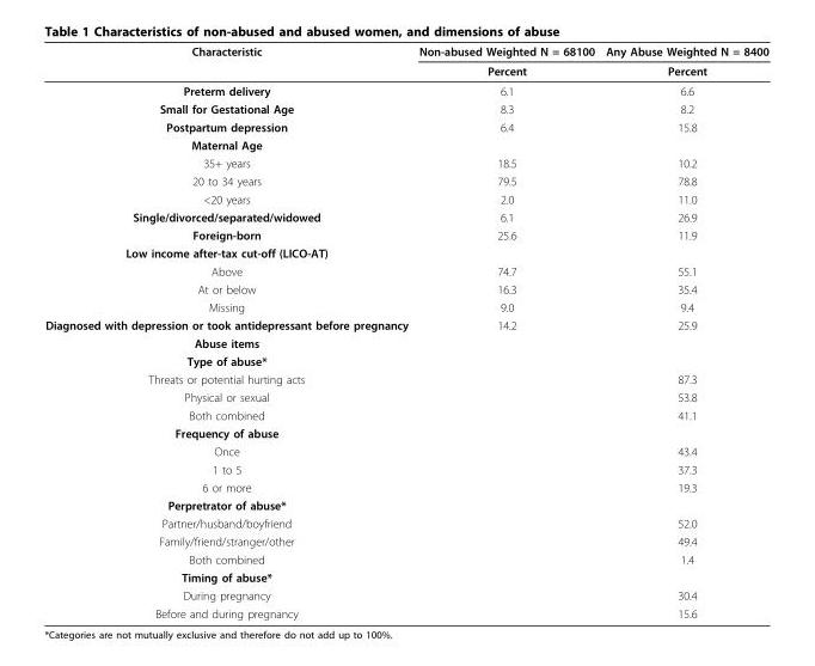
<table><thead><tr><td rowspan="2">Characteristic</td><td rowspan="2">Non-abused Weighted N = 68100 Percent</td><td rowspan="2">Any Abuse Weighted N = 8400 Percent</td></tr><tr></tr></thead><tbody><tr><td>Preterm delivery</td><td>6.1</td><td>6.6</td></tr><tr><td>Small for Gestational Age</td><td>8.3</td><td>8.2</td></tr><tr><td>Postpartum depression</td><td>6.4</td><td>15.8</td></tr><tr><td colspan="3">Maternal Age</td></tr><tr><td>35+ years</td><td>18.5</td><td>10.2</td></tr><tr><td>20 to 34 years</td><td>79.5</td><td>78.8</td></tr><tr><td>&lt;20 years</td><td>2.0</td><td>11.0</td></tr><tr><td>Single/divorced/separated/widowed</td><td>6.1</td><td>26.9</td></tr><tr><td>Foreign-born</td><td>25.6</td><td>11.9</td></tr><tr><td colspan="3">Low income after-tax cut-off (LICO-AT)</td></tr><tr><td>Above</td><td>74.7</td><td>55.1</td></tr><tr><td>At or below</td><td>16.3</td><td>35.4</td></tr><tr><td>Missing</td><td>9.0</td><td>9.4</td></tr><tr><td>Diagnosed with depression or took antidepressant before pregnancy</td><td>14.2</td><td>25.9</td></tr><tr><td colspan="3">Abuse items</td></tr><tr><td colspan="3">Type of abuse*</td></tr><tr><td>Threats or potential hurting acts</td><td></td><td>87.3</td></tr><tr><td>Physical or sexual</td><td></td><td>53.8</td></tr><tr><td>Both combined</td><td></td><td>41.1</td></tr><tr><td colspan="3">Frequency of abuse</td></tr><tr><td>Once</td><td></td><td>43.4</td></tr><tr><td>1 to 5</td><td></td><td>37.3</td></tr><tr><td>6 or more</td><td></td><td>19.3</td></tr><tr><td colspan="3">Perpretrator of abuse*</td></tr><tr><td>Partner/husband/boyfriend</td><td></td><td>52.0</td></tr><tr><td>Family/friend/stranger/other</td><td></td><td>49.4</td></tr><tr><td>Both combined</td><td></td><td>1.4</td></tr><tr><td colspan="3">Timing of abuse*</td></tr><tr><td>During pregnancy</td><td></td><td>30.4</td></tr><tr><td>Before and during pregnancy</td><td></td><td>15.6</td></tr></tbody></table>